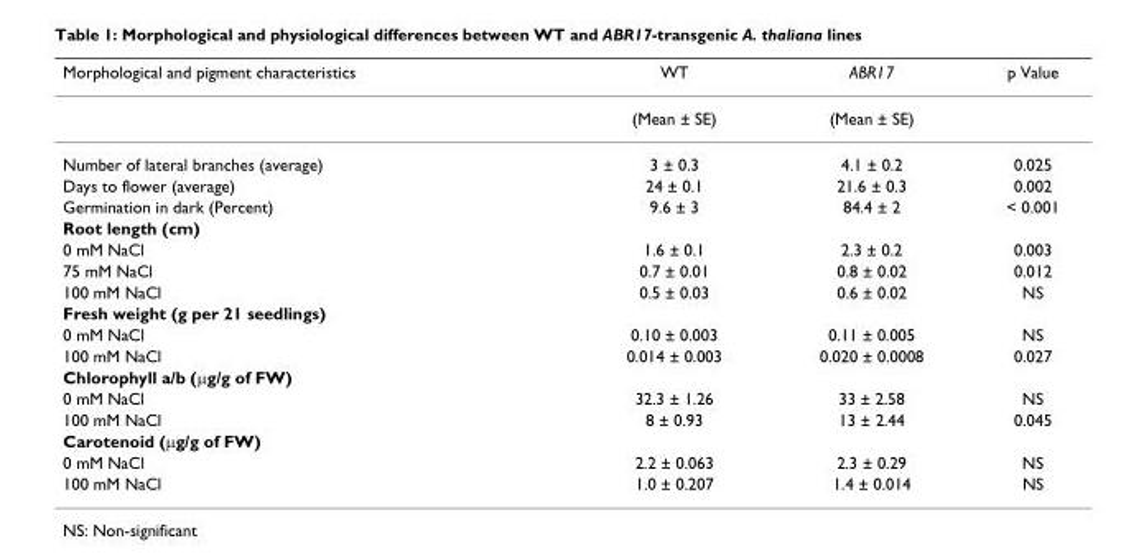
<table><thead><tr><td>Morphological and pigment characteristics</td><td>WT</td><td>ABR17</td><td>p Value</td></tr></thead><tbody><tr><td></td><td>(Mean ± SE)</td><td>(Mean ± SE)</td><td></td></tr><tr><td>Number of lateral branches (average)</td><td>3 ± 0.3</td><td>4.1 ± 0.2</td><td>0.025</td></tr><tr><td>Days to flower (average)</td><td>24 ± 0.1</td><td>21.6 ± 0.3</td><td>0.002</td></tr><tr><td>Germination in dark (Percent)</td><td>9.6 ± 3</td><td>84.4 ± 2</td><td>&lt; 0.001</td></tr><tr><td colspan="4">Root length (cm)</td></tr><tr><td>0 mM NaCl</td><td>1.6 ± 0.1</td><td>2.3 ± 0.2</td><td>0.003</td></tr><tr><td>75 mM NaCl</td><td>0.7 ± 0.01</td><td>0.8 ± 0.02</td><td>0.012</td></tr><tr><td>100 mM NaCl</td><td>0.5 ± 0.03</td><td>0.6 ± 0.02</td><td>NS</td></tr><tr><td colspan="4">Fresh weight (g per 21 seedlings)</td></tr><tr><td>0 mM NaCl</td><td>0.10 ± 0.003</td><td>0.11 ± 0.005</td><td>NS</td></tr><tr><td>100 mM NaCl</td><td>0.014 ± 0.003</td><td>0.020 ± 0.0008</td><td>0.027</td></tr><tr><td colspan="4">Chlorophyll a/b (μg/g of FW)</td></tr><tr><td>0 mM NaCl</td><td>32.3 ± 1.26</td><td>33 ± 2.58</td><td>NS</td></tr><tr><td>100 mM NaCl</td><td>8 ± 0.93</td><td>13 ± 2.44</td><td>0.045</td></tr><tr><td colspan="4">Carotenoid (μg/g of FW)</td></tr><tr><td>0 mM NaCl</td><td>2.2 ± 0.063</td><td>2.3 ± 0.29</td><td>NS</td></tr><tr><td>100 mM NaCl</td><td>1.0 ± 0.207</td><td>1.4 ± 0.014</td><td>NS</td></tr></tbody></table>